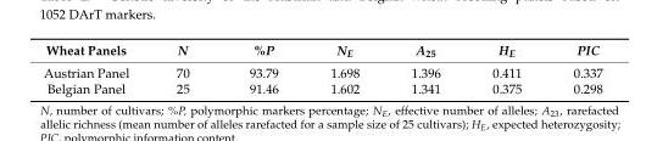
<table><thead><tr><td>Wheat Panels</td><td>N</td><td>%P</td><td>N<sub>E</sub></td><td>A<sub>25</sub></td><td>H<sub>E</sub></td><td>PIC</td></tr></thead><tbody><tr><td>Austrian Panel</td><td>70</td><td>93.79</td><td>1.698</td><td>1.396</td><td>0.411</td><td>0.337</td></tr><tr><td>Belgian Panel</td><td>25</td><td>91.46</td><td>1.602</td><td>1.341</td><td>0.375</td><td>0.298</td></tr></tbody></table>